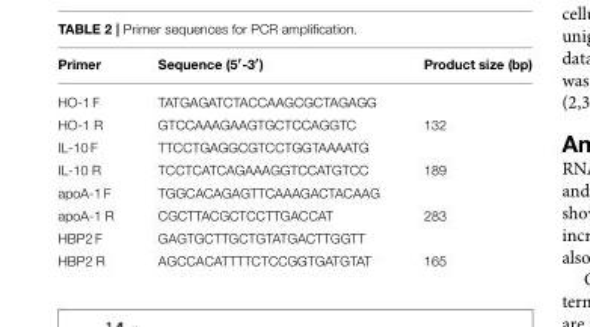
<table><thead><tr><td>Primer</td><td>Sequence (5′-3′)</td><td>Product size (bp)</td></tr></thead><tbody><tr><td>HO-1 F</td><td>TATGAGATCTACCAAGCGCTAGAGG</td><td></td></tr><tr><td>HO-1 R</td><td>GTCCAAAGAAGTGCTCCAGGTC</td><td>132</td></tr><tr><td>IL-10 F</td><td>TTCCTGAGGCGTCCTGGTAAAATG</td><td></td></tr><tr><td>IL-10 R</td><td>TCCTCATCAGAAAGGTCCATGTCC</td><td>189</td></tr><tr><td>apoA-1 F</td><td>TGGCACAGAGTTCAAAGACTACAAG</td><td></td></tr><tr><td>apoA-1 R</td><td>CGCTTACGCTCCTTGACCAT</td><td>283</td></tr><tr><td>HBP2 F</td><td>GAGTGCTTGCTGTATGACTTGGTT</td><td></td></tr><tr><td>HBP2 R</td><td>AGCCACATTTTCTCCGGTGATGTAT</td><td>165</td></tr></tbody></table>